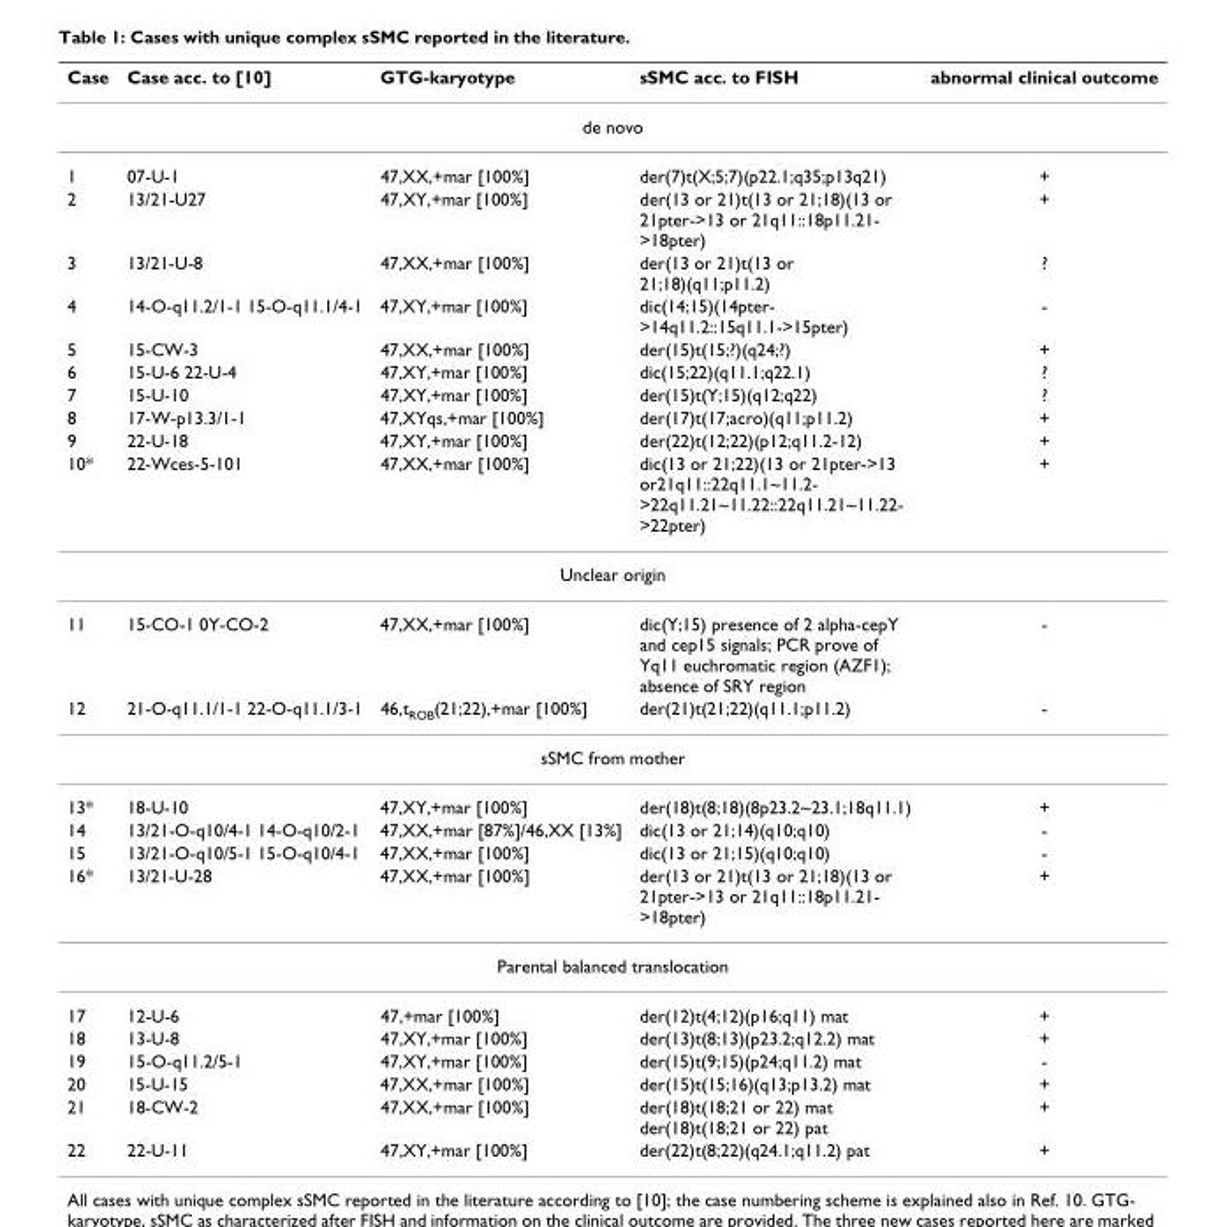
<table><thead><tr><td>Case</td><td>Case acc. to [10]</td><td>GTG-karyotype</td><td>sSMC acc. to FISH</td><td>abnormal clinical outcome</td></tr></thead><tbody><tr><td colspan="5">de novo</td></tr><tr><td>1</td><td>07-U-1</td><td>47,XX,+mar [100%]</td><td>der(7)t(X;5;7)(p22.1;q35;p13q21)</td><td>+</td></tr><tr><td>2</td><td>13/21-U27</td><td>47,XY,+mar [100%]</td><td>der(13 or 21)t(13 or 21;18)(13 or 21pter-&gt;13 or 21q11::18p11.21- &gt;18pter)</td><td>+</td></tr><tr><td>3</td><td>13/21-U-8</td><td>47,XX,+mar [100%]</td><td>der(13 or 21)t(13 or 21;18)(q11;p11.2)</td><td>?</td></tr><tr><td>4</td><td>14-O-q11.2/1-1 15-O-q11.1/4-1</td><td>47,XY,+mar [100%]</td><td>dic(14;15)(14pter- &gt;14q11.2::15q11.1-&gt;15pter)</td><td>-</td></tr><tr><td>5</td><td>15-CW-3</td><td>47,XX,+mar [100%]</td><td>der(15)t(15;?)(q24;?)</td><td>+</td></tr><tr><td>6</td><td>15-U-6 22-U-4</td><td>47,XY,+mar [100%]</td><td>dic(15;22)(q11.1;q22.1)</td><td>?</td></tr><tr><td>7</td><td>15-U-10</td><td>47,XY,+mar [100%]</td><td>der(15)t(Y;15)(q12;q22)</td><td>?</td></tr><tr><td>8</td><td>17-W-p13.3/1-1</td><td>47,XYqs,+mar [100%]</td><td>der(17)t(17;acro)(q11;p11.2)</td><td>+</td></tr><tr><td>9</td><td>22-U-18</td><td>47,XY,+mar [100%]</td><td>der(22)t(12;22)(p12;q11.2-12)</td><td>+</td></tr><tr><td>10*</td><td>22-Wces-5-101</td><td>47,XX,+mar [100%]</td><td>dic(13 or 21;22)(13 or 21pter-&gt;13 or21q11::22q11.1~11.2- &gt;22q11.21~11.22::22q11.21~11.22- &gt;22pter)</td><td>+</td></tr><tr><td colspan="5">Unclear origin</td></tr><tr><td>11</td><td>15-CO-1 0Y-CO-2</td><td>47,XX,+mar [100%]</td><td>dic(Y;15) presence of 2 alpha-cepY and cep15 signals; PCR prove of Yq11 euchromatic region (AZF1); absence of SRY region</td><td>-</td></tr><tr><td>12</td><td>21-O-q11.1/1-1 22-O-q11.1/3-1</td><td>46,t<sub>ROB</sub>(21;22),+mar [100%]</td><td>der(21)t(21;22)(q11.1;p11.2)</td><td>-</td></tr><tr><td colspan="5">sSMC from mother</td></tr><tr><td>13*</td><td>18-U-10</td><td>47,XY,+mar [100%]</td><td>der(18)t(8;18)(8p23.2~23.1;18q11.1)</td><td>+</td></tr><tr><td>14</td><td>13/21-O-q10/4-1 14-O-q10/2-1</td><td>47,XX,+mar [87%]/46,XX [13%]</td><td>dic(13 or 21;14)(q10;q10)</td><td>-</td></tr><tr><td>15</td><td>13/21-O-q10/5-1 15-O-q10/4-1</td><td>47,XX,+mar [100%]</td><td>dic(13 or 21;15)(q10;q10)</td><td>-</td></tr><tr><td>16*</td><td>13/21-U-28</td><td>47,XX,+mar [100%]</td><td>der(13 or 21)t(13 or 21;18)(13 or 21pter-&gt;13 or 21q11::18p11.21- &gt;18pter)</td><td>+</td></tr><tr><td colspan="5">Parental balanced translocation</td></tr><tr><td>17</td><td>12-U-6</td><td>47,+mar [100%]</td><td>der(12)t(4;12)(p16;q11) mat</td><td>+</td></tr><tr><td>18</td><td>13-U-8</td><td>47,XY,+mar [100%]</td><td>der(13)t(8;13)(p23.2;q12.2) mat</td><td>+</td></tr><tr><td>19</td><td>15-O-q11.2/5-1</td><td>47,XY,+mar [100%]</td><td>der(15)t(9;15)(p24;q11.2) mat</td><td>-</td></tr><tr><td>20</td><td>15-U-15</td><td>47,XX,+mar [100%]</td><td>der(15)t(15;16)(q13;p13.2) mat</td><td>+</td></tr><tr><td>21</td><td>18-CW-2</td><td>47,XX,+mar [100%]</td><td>der(18)t(18;21 or 22) mat der(18)t(18;21 or 22) pat</td><td>+</td></tr><tr><td>22</td><td>22-U-11</td><td>47,XY,+mar [100%]</td><td>der(22)t(8;22)(q24.1;q11.2) pat</td><td>+</td></tr></tbody></table>